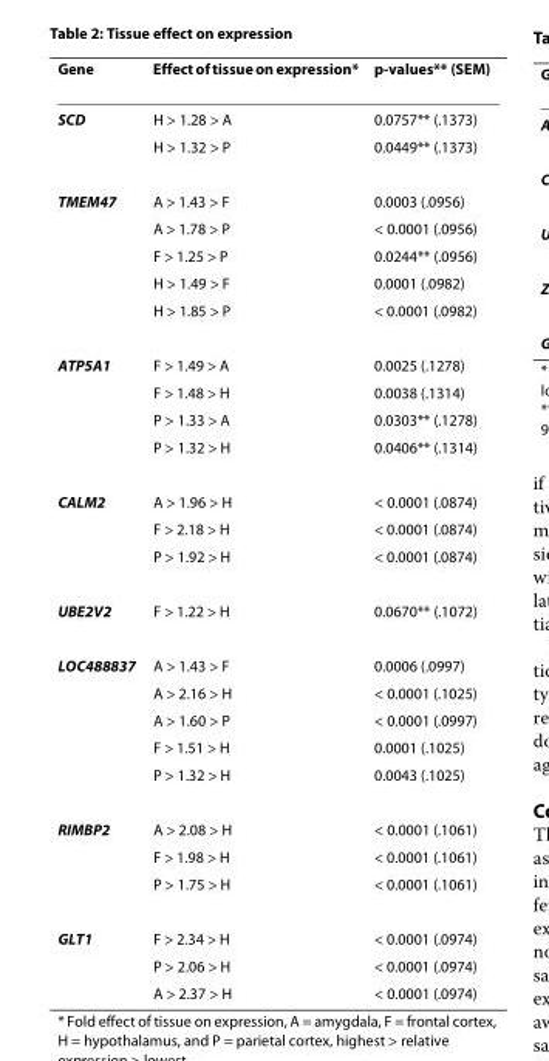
<table><thead><tr><td>Gene</td><td>Effect of tissue on expression*</td><td>p-values** (SEM)</td></tr></thead><tbody><tr><td rowspan="2">SCD</td><td>H &gt; 1.28 &gt; A</td><td>0.0757** (.1373)</td></tr><tr><td>H &gt; 1.32 &gt; P</td><td>0.0449** (.1373)</td></tr><tr><td rowspan="5">TMEM47</td><td>A &gt; 1.43 &gt; F</td><td>0.0003 (.0956)</td></tr><tr><td>A &gt; 1.78 &gt; P</td><td>&lt; 0.0001 (.0956)</td></tr><tr><td>F &gt; 1.25 &gt; P</td><td>0.0244** (.0956)</td></tr><tr><td>H &gt; 1.49 &gt; F</td><td>0.0001 (.0982)</td></tr><tr><td>H &gt; 1.85 &gt; P</td><td>&lt; 0.0001 (.0982)</td></tr><tr><td rowspan="4">ATP5A1</td><td>F &gt; 1.49 &gt; A</td><td>0.0025 (.1278)</td></tr><tr><td>F &gt; 1.48 &gt; H</td><td>0.0038 (.1314)</td></tr><tr><td>P &gt; 1.33 &gt; A</td><td>0.0303** (.1278)</td></tr><tr><td>P &gt; 1.32 &gt; H</td><td>0.0406** (.1314)</td></tr><tr><td rowspan="3">CALM2</td><td>A &gt; 1.96 &gt; H</td><td>&lt; 0.0001 (.0874)</td></tr><tr><td>F &gt; 2.18 &gt; H</td><td>&lt; 0.0001 (.0874)</td></tr><tr><td>P &gt; 1.92 &gt; H</td><td>&lt; 0.0001 (.0874)</td></tr><tr><td>UBE2V2</td><td>F &gt; 1.22 &gt; H</td><td>0.0670** (.1072)</td></tr><tr><td rowspan="5">LOC488837</td><td>A &gt; 1.43 &gt; F</td><td>0.0006 (.0997)</td></tr><tr><td>A &gt; 2.16 &gt; H</td><td>&lt; 0.0001 (.1025)</td></tr><tr><td>A &gt; 1.60 &gt; P</td><td>&lt; 0.0001 (.0997)</td></tr><tr><td>F &gt; 1.51 &gt; H</td><td>0.0001 (.1025)</td></tr><tr><td>P &gt; 1.32 &gt; H</td><td>0.0043 (.1025)</td></tr><tr><td rowspan="3">RIMBP2</td><td>A &gt; 2.08 &gt; H</td><td>&lt; 0.0001 (.1061)</td></tr><tr><td>F &gt; 1.98 &gt; H</td><td>&lt; 0.0001 (.1061)</td></tr><tr><td>P &gt; 1.75 &gt; H</td><td>&lt; 0.0001 (.1061)</td></tr><tr><td rowspan="3">GLT1</td><td>F &gt; 2.34 &gt; H</td><td>&lt; 0.0001 (.0974)</td></tr><tr><td>P &gt; 2.06 &gt; H</td><td>&lt; 0.0001 (.0974)</td></tr><tr><td>A &gt; 2.37 &gt; H</td><td>&lt; 0.0001 (.0974)</td></tr></tbody></table>